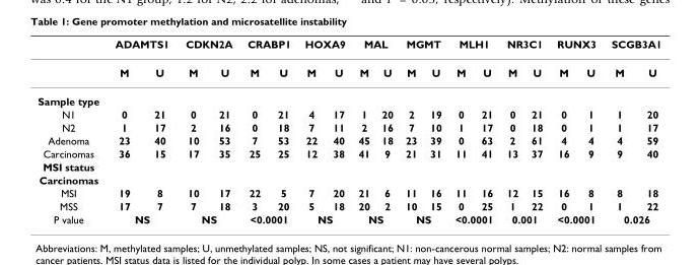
<table><thead><tr><td rowspan="2"></td><td colspan="2">ADAMTS1</td><td colspan="2">CDKN2A</td><td colspan="2">CRABP1</td><td colspan="2">HOXA9</td><td colspan="2">MAL</td><td colspan="2">MGMT</td><td colspan="2">MLH1</td><td colspan="2">NR3C1</td><td colspan="2">RUNX3</td><td colspan="2">SCGB3A1</td></tr><tr><td>M</td><td>U</td><td>M</td><td>U</td><td>M</td><td>U</td><td>M</td><td>U</td><td>M</td><td>U</td><td>M</td><td>U</td><td>M</td><td>U</td><td>M</td><td>U</td><td>M</td><td>U</td><td>M</td><td>U</td></tr></thead><tbody><tr><td colspan="21">Sample type</td></tr><tr><td>N1</td><td>0</td><td>21</td><td>0</td><td>21</td><td>0</td><td>21</td><td>4</td><td>17</td><td>1</td><td>20</td><td>2</td><td>19</td><td>0</td><td>21</td><td>0</td><td>21</td><td>0</td><td>1</td><td>1</td><td>20</td></tr><tr><td>N2</td><td>1</td><td>17</td><td>2</td><td>16</td><td>0</td><td>18</td><td>7</td><td>11</td><td>2</td><td>16</td><td>7</td><td>10</td><td>1</td><td>17</td><td>0</td><td>18</td><td>0</td><td>1</td><td>1</td><td>17</td></tr><tr><td>Adenoma</td><td>23</td><td>40</td><td>10</td><td>53</td><td>7</td><td>53</td><td>22</td><td>40</td><td>45</td><td>18</td><td>23</td><td>39</td><td>0</td><td>63</td><td>2</td><td>61</td><td>4</td><td>4</td><td>4</td><td>59</td></tr><tr><td>Carcinomas</td><td>36</td><td>15</td><td>17</td><td>35</td><td>25</td><td>25</td><td>12</td><td>38</td><td>41</td><td>9</td><td>21</td><td>31</td><td>11</td><td>41</td><td>13</td><td>37</td><td>16</td><td>9</td><td>9</td><td>40</td></tr><tr><td colspan="21">MSI status</td></tr><tr><td colspan="21">Carcinomas</td></tr><tr><td>MSI</td><td>19</td><td>8</td><td>10</td><td>17</td><td>22</td><td>5</td><td>7</td><td>20</td><td>21</td><td>6</td><td>11</td><td>16</td><td>11</td><td>16</td><td>12</td><td>15</td><td>16</td><td>8</td><td>8</td><td>18</td></tr><tr><td>MSS</td><td>17</td><td>7</td><td>7</td><td>18</td><td>3</td><td>20</td><td>5</td><td>18</td><td>20</td><td>2</td><td>10</td><td>15</td><td>0</td><td>25</td><td>1</td><td>22</td><td>0</td><td>1</td><td>1</td><td>22</td></tr><tr><td>P value</td><td colspan="2">NS</td><td colspan="2">NS</td><td colspan="2">&lt;0.0001</td><td colspan="2">NS</td><td colspan="2">NS</td><td colspan="2">NS</td><td colspan="2">&lt;0.0001</td><td colspan="2">0.001</td><td colspan="2">&lt;0.0001</td><td colspan="2">0.026</td></tr></tbody></table>